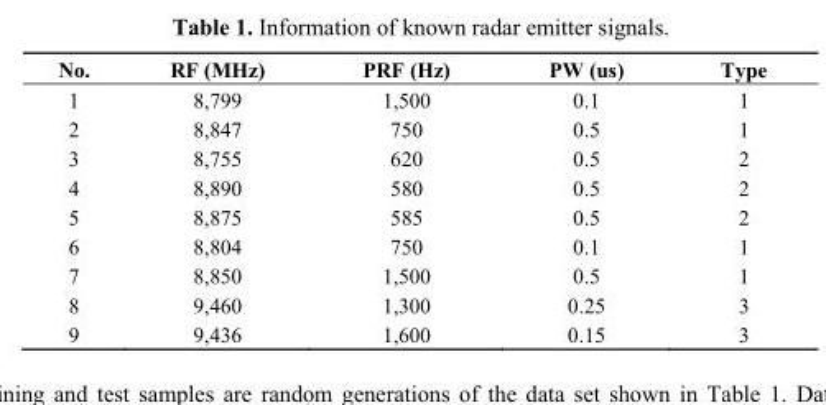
<table><thead><tr><td>No.</td><td>RF (MHz)</td><td>PRF (Hz)</td><td>PW (us)</td><td>Type</td></tr></thead><tbody><tr><td>1</td><td>8,799</td><td>1,500</td><td>0.1</td><td>1</td></tr><tr><td>2</td><td>8,847</td><td>750</td><td>0.5</td><td>1</td></tr><tr><td>3</td><td>8,755</td><td>620</td><td>0.5</td><td>2</td></tr><tr><td>4</td><td>8,890</td><td>580</td><td>0.5</td><td>2</td></tr><tr><td>5</td><td>8,875</td><td>585</td><td>0.5</td><td>2</td></tr><tr><td>6</td><td>8,804</td><td>750</td><td>0.1</td><td>1</td></tr><tr><td>7</td><td>8,850</td><td>1,500</td><td>0.5</td><td>1</td></tr><tr><td>8</td><td>9,460</td><td>1,300</td><td>0.25</td><td>3</td></tr><tr><td>9</td><td>9,436</td><td>1,600</td><td>0.15</td><td>3</td></tr></tbody></table>